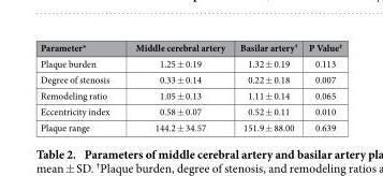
<table><thead><tr><td>Parameter*</td><td>Middle cerebral artery</td><td>Basilar artery<sup>†</sup></td><td>P Value<sup>‡</sup></td></tr></thead><tbody><tr><td>Plaque burden</td><td>1.25 ± 0.19</td><td>1.32 ± 0.19</td><td>0.113</td></tr><tr><td>Degree of stenosis</td><td>0.33 ± 0.14</td><td>0.22 ± 0.18</td><td>0.007</td></tr><tr><td>Remodeling ratio</td><td>1.05 ± 0.13</td><td>1.11 ± 0.14</td><td>0.065</td></tr><tr><td>Eccentricity index</td><td>0.58 ± 0.07</td><td>0.52 ± 0.11</td><td>0.010</td></tr><tr><td>Plaque range</td><td>144.2 ± 34.57</td><td>151.9 ± 88.00</td><td>0.639</td></tr></tbody></table>